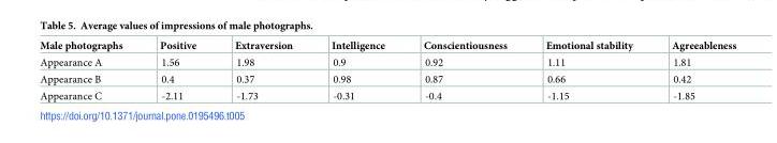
<table><thead><tr><td>Male photographs</td><td>Positive</td><td>Extraversion</td><td>Intelligence</td><td>Conscientiousness</td><td>Emotional stability</td><td>Agreeableness</td></tr></thead><tbody><tr><td>Appearance A</td><td>1.56</td><td>1.98</td><td>0.9</td><td>0.92</td><td>1.11</td><td>1.81</td></tr><tr><td>Appearance B</td><td>0.4</td><td>0.37</td><td>0.98</td><td>0.87</td><td>0.66</td><td>0.42</td></tr><tr><td>Appearance C</td><td>-2.11</td><td>-1.73</td><td>-0.31</td><td>-0.4</td><td>-1.15</td><td>-1.85</td></tr></tbody></table>